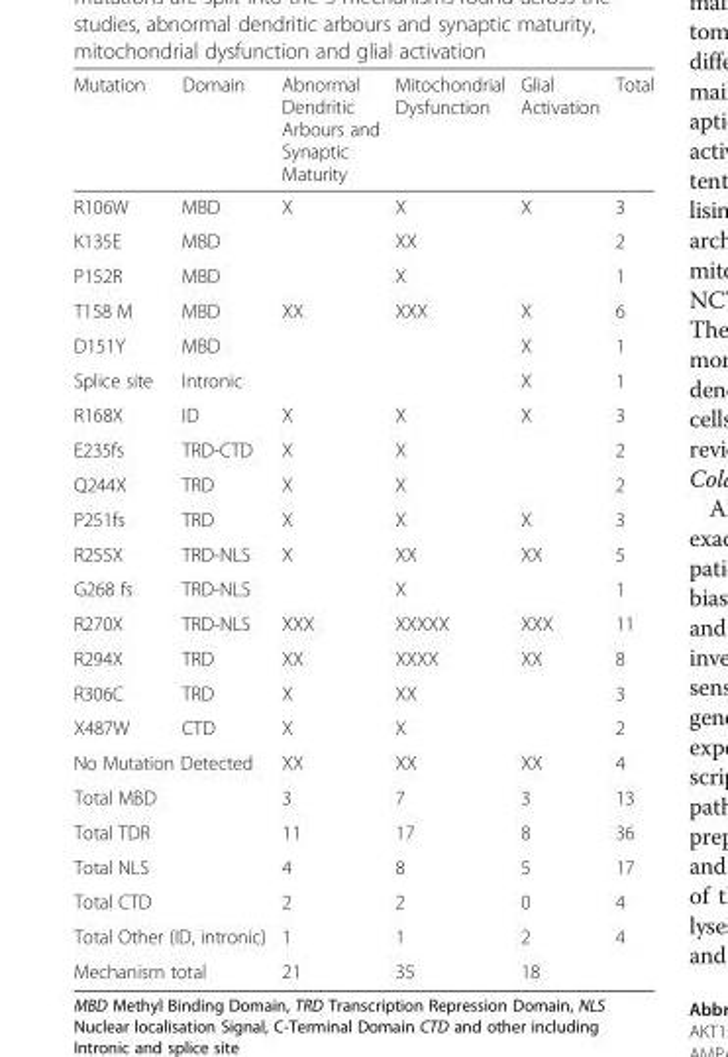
<table><thead><tr><td>Mutation</td><td>Domain</td><td>Abnormal Dendritic Arbours and Synaptic Maturity</td><td>Mitochondrial Dysfunction</td><td>Glial Activation</td><td>Total</td></tr></thead><tbody><tr><td>R106W</td><td>MBD</td><td>X</td><td>X</td><td>X</td><td>3</td></tr><tr><td>K135E</td><td>MBD</td><td></td><td>XX</td><td></td><td>2</td></tr><tr><td>P152R</td><td>MBD</td><td></td><td>X</td><td></td><td>1</td></tr><tr><td>T158 M</td><td>MBD</td><td>XX</td><td>XXX</td><td>X</td><td>6</td></tr><tr><td>D151Y</td><td>MBD</td><td></td><td></td><td>X</td><td>1</td></tr><tr><td>Splice site</td><td>Intronic</td><td></td><td></td><td>X</td><td>1</td></tr><tr><td>R168X</td><td>ID</td><td>X</td><td>X</td><td>X</td><td>3</td></tr><tr><td>E235fs</td><td>TRD-CTD</td><td>X</td><td>X</td><td></td><td>2</td></tr><tr><td>Q244X</td><td>TRD</td><td>X</td><td>X</td><td></td><td>2</td></tr><tr><td>P251fs</td><td>TRD</td><td>X</td><td>X</td><td>X</td><td>3</td></tr><tr><td>R255X</td><td>TRD-NLS</td><td>X</td><td>XX</td><td>XX</td><td>5</td></tr><tr><td>G268 fs</td><td>TRD-NLS</td><td></td><td>X</td><td></td><td>1</td></tr><tr><td>R270X</td><td>TRD-NLS</td><td>XXX</td><td>XXXXX</td><td>XXX</td><td>11</td></tr><tr><td>R294X</td><td>TRD</td><td>XX</td><td>XXXX</td><td>XX</td><td>8</td></tr><tr><td>R306C</td><td>TRD</td><td>X</td><td>XX</td><td></td><td>3</td></tr><tr><td>X487W</td><td>CTD</td><td>X</td><td>X</td><td></td><td>2</td></tr><tr><td colspan="2">No Mutation Detected</td><td>XX</td><td>XX</td><td>XX</td><td>4</td></tr><tr><td colspan="2">Total MBD</td><td>3</td><td>7</td><td>3</td><td>13</td></tr><tr><td colspan="2">Total TDR</td><td>11</td><td>17</td><td>8</td><td>36</td></tr><tr><td colspan="2">Total NLS</td><td>4</td><td>8</td><td>5</td><td>17</td></tr><tr><td colspan="2">Total CTD</td><td>2</td><td>2</td><td>0</td><td>4</td></tr><tr><td colspan="2">Total Other (ID, intronic)</td><td>1</td><td>1</td><td>2</td><td>4</td></tr><tr><td colspan="2">Mechanism total</td><td>21</td><td>35</td><td>18</td><td></td></tr></tbody></table>